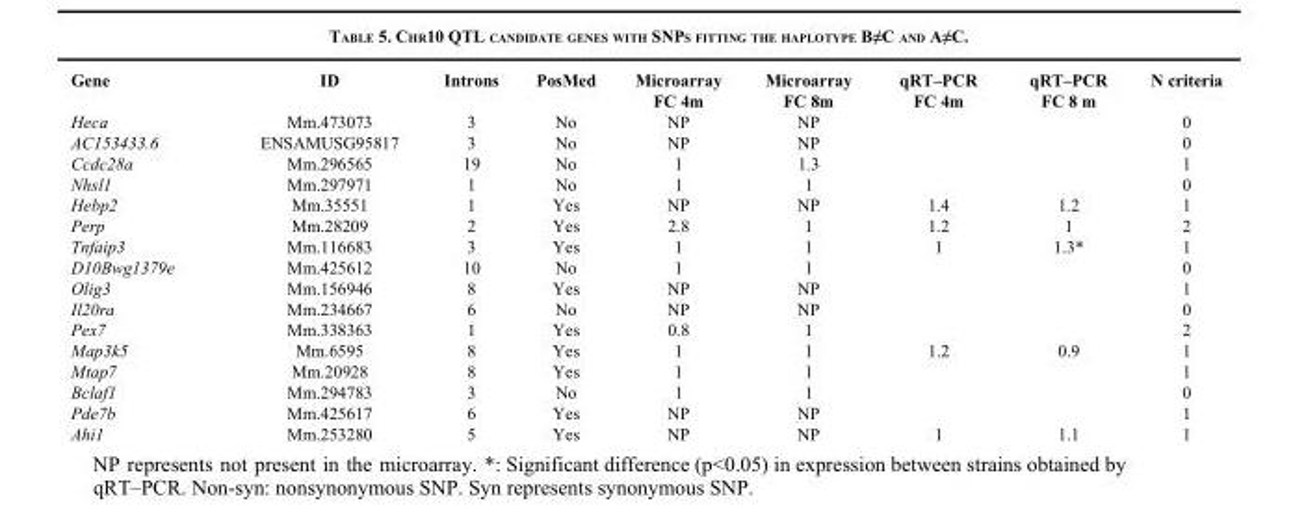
<table><thead><tr><td>Gene</td><td>ID</td><td>Introns</td><td>PosMed</td><td>Microarray FC 4m</td><td>Microarray FC 8m</td><td>qRT–PCR FC 4m</td><td>qRT–PCR FC 8 m</td><td>N criteria</td></tr></thead><tbody><tr><td>Heca</td><td>Mm.473073</td><td>3</td><td>No</td><td>NP</td><td>NP</td><td></td><td></td><td>0</td></tr><tr><td>AC153433.6</td><td>ENSAMUSG95817</td><td>3</td><td>No</td><td>NP</td><td>NP</td><td></td><td></td><td>0</td></tr><tr><td>Ccdc28a</td><td>Mm.296565</td><td>19</td><td>No</td><td>1</td><td>1.3</td><td></td><td></td><td>1</td></tr><tr><td>Nhsl1</td><td>Mm.297971</td><td>1</td><td>No</td><td>1</td><td>1</td><td></td><td></td><td>0</td></tr><tr><td>Hebp2</td><td>Mm.35551</td><td>1</td><td>Yes</td><td>NP</td><td>NP</td><td>1.4</td><td>1.2</td><td>1</td></tr><tr><td>Perp</td><td>Mm.28209</td><td>2</td><td>Yes</td><td>2.8</td><td>1</td><td>1.2</td><td>1</td><td>2</td></tr><tr><td>Tnfaip3</td><td>Mm.116683</td><td>3</td><td>Yes</td><td>1</td><td>1</td><td>1</td><td>1.3*</td><td>1</td></tr><tr><td>D10Bwg1379e</td><td>Mm.425612</td><td>10</td><td>No</td><td>1</td><td>1</td><td></td><td></td><td>0</td></tr><tr><td>Olig3</td><td>Mm.156946</td><td>8</td><td>Yes</td><td>NP</td><td>NP</td><td></td><td></td><td>1</td></tr><tr><td>Il20ra</td><td>Mm.234667</td><td>6</td><td>No</td><td>NP</td><td>NP</td><td></td><td></td><td>0</td></tr><tr><td>Pex7</td><td>Mm.338363</td><td>1</td><td>Yes</td><td>0.8</td><td>1</td><td></td><td></td><td>2</td></tr><tr><td>Map3k5</td><td>Mm.6595</td><td>8</td><td>Yes</td><td>1</td><td>1</td><td>1.2</td><td>0.9</td><td>1</td></tr><tr><td>Mtap7</td><td>Mm.20928</td><td>8</td><td>Yes</td><td>1</td><td>1</td><td></td><td></td><td>1</td></tr><tr><td>Bclaf1</td><td>Mm.294783</td><td>3</td><td>No</td><td>1</td><td>1</td><td></td><td></td><td>0</td></tr><tr><td>Pde7b</td><td>Mm.425617</td><td>6</td><td>Yes</td><td>NP</td><td>NP</td><td></td><td></td><td>1</td></tr><tr><td>Ahi1</td><td>Mm.253280</td><td>5</td><td>Yes</td><td>NP</td><td>NP</td><td>1</td><td>1.1</td><td>1</td></tr></tbody></table>